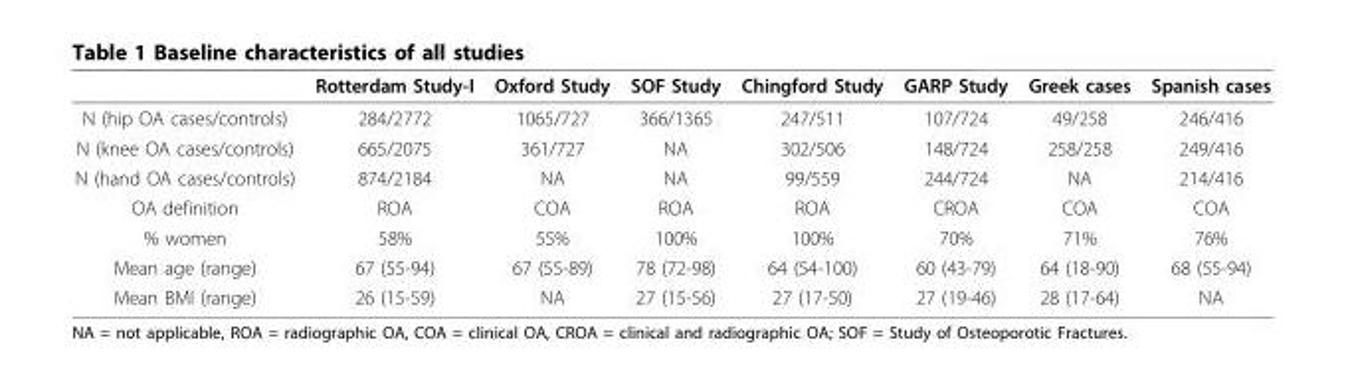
<table><thead><tr><td></td><td>Rotterdam Study-I</td><td>Oxford Study</td><td>SOF Study</td><td>Chingford Study</td><td>GARP Study</td><td>Greek cases</td><td>Spanish cases</td></tr></thead><tbody><tr><td>N (hip OA cases/controls)</td><td>284/2772</td><td>1065/727</td><td>366/1365</td><td>247/511</td><td>107/724</td><td>49/258</td><td>246/416</td></tr><tr><td>N (knee OA cases/controls)</td><td>665/2075</td><td>361/727</td><td>NA</td><td>302/506</td><td>148/724</td><td>258/258</td><td>249/416</td></tr><tr><td>N (hand OA cases/controls)</td><td>874/2184</td><td>NA</td><td>NA</td><td>99/559</td><td>244/724</td><td>NA</td><td>214/416</td></tr><tr><td>OA definition</td><td>ROA</td><td>COA</td><td>ROA</td><td>ROA</td><td>CROA</td><td>COA</td><td>COA</td></tr><tr><td>% women</td><td>58%</td><td>55%</td><td>100%</td><td>100%</td><td>70%</td><td>71%</td><td>76%</td></tr><tr><td>Mean age (range)</td><td>67 (55-94)</td><td>67 (55-89)</td><td>78 (72-98)</td><td>64 (54-100)</td><td>60 (43-79)</td><td>64 (18-90)</td><td>68 (55-94)</td></tr><tr><td>Mean BMI (range)</td><td>26 (15-59)</td><td>NA</td><td>27 (15-56)</td><td>27 (17-50)</td><td>27 (19-46)</td><td>28 (17-64)</td><td>NA</td></tr></tbody></table>